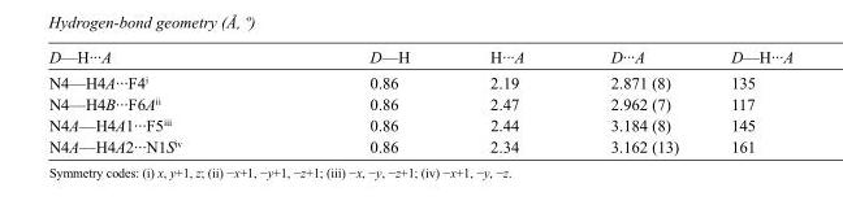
<table><tbody><tr><td>D—H···A</td><td>D—H</td><td>H···A</td><td>D···A</td><td>D—H···A</td></tr><tr><td>N4—H4A···F4<sup>i</sup></td><td>0.86</td><td>2.19</td><td>2.871 (8)</td><td>135</td></tr><tr><td>N4—H4B···F6A<sup>ii</sup></td><td>0.86</td><td>2.47</td><td>2.962 (7)</td><td>117</td></tr><tr><td>N4A—H4A1···F5<sup>iii</sup></td><td>0.86</td><td>2.44</td><td>3.184 (8)</td><td>145</td></tr><tr><td>N4A—H4A2···N1S<sup>iv</sup></td><td>0.86</td><td>2.34</td><td>3.162 (13)</td><td>161</td></tr></tbody></table>